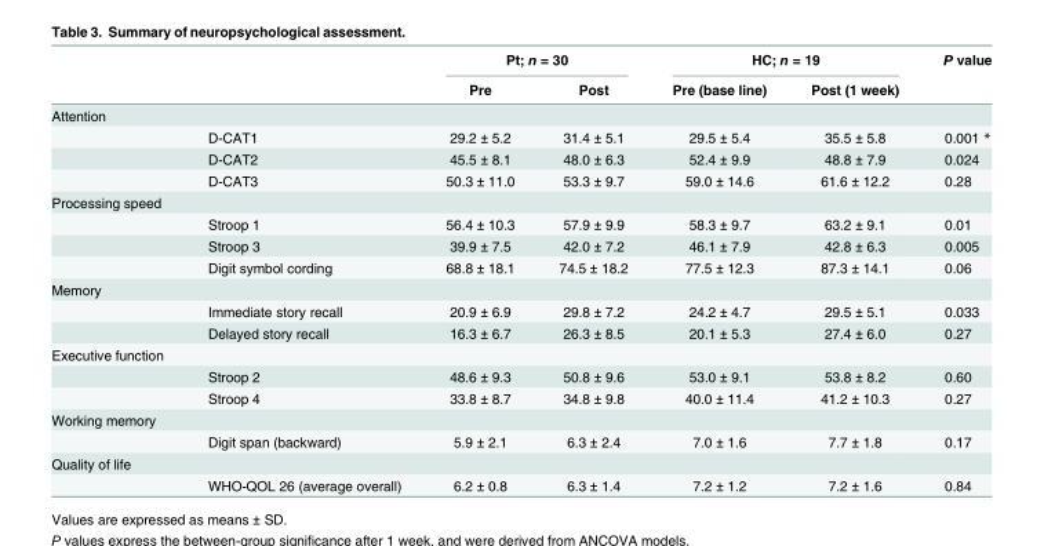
<table><thead><tr><td rowspan="2"></td><td rowspan="2"></td><td colspan="2">Pt; n = 30</td><td colspan="2">HC; n = 19</td><td rowspan="2">P value</td></tr><tr><td>Pre</td><td>Post</td><td>Pre (base line)</td><td>Post (1 week)</td></tr></thead><tbody><tr><td colspan="7">Attention</td></tr><tr><td></td><td>D-CAT1</td><td>29.2 ± 5.2</td><td>31.4 ± 5.1</td><td>29.5 ± 5.4</td><td>35.5 ± 5.8</td><td>0.001 *</td></tr><tr><td></td><td>D-CAT2</td><td>45.5 ± 8.1</td><td>48.0 ± 6.3</td><td>52.4 ± 9.9</td><td>48.8 ± 7.9</td><td>0.024</td></tr><tr><td></td><td>D-CAT3</td><td>50.3 ± 11.0</td><td>53.3 ± 9.7</td><td>59.0 ± 14.6</td><td>61.6 ± 12.2</td><td>0.28</td></tr><tr><td colspan="7">Processing speed</td></tr><tr><td></td><td>Stroop 1</td><td>56.4 ± 10.3</td><td>57.9 ± 9.9</td><td>58.3 ± 9.7</td><td>63.2 ± 9.1</td><td>0.01</td></tr><tr><td></td><td>Stroop 3</td><td>39.9 ± 7.5</td><td>42.0 ± 7.2</td><td>46.1 ± 7.9</td><td>42.8 ± 6.3</td><td>0.005</td></tr><tr><td></td><td>Digit symbol cording</td><td>68.8 ± 18.1</td><td>74.5 ± 18.2</td><td>77.5 ± 12.3</td><td>87.3 ± 14.1</td><td>0.06</td></tr><tr><td colspan="7">Memory</td></tr><tr><td></td><td>Immediate story recall</td><td>20.9 ± 6.9</td><td>29.8 ± 7.2</td><td>24.2 ± 4.7</td><td>29.5 ± 5.1</td><td>0.033</td></tr><tr><td></td><td>Delayed story recall</td><td>16.3 ± 6.7</td><td>26.3 ± 8.5</td><td>20.1 ± 5.3</td><td>27.4 ± 6.0</td><td>0.27</td></tr><tr><td colspan="7">Executive function</td></tr><tr><td></td><td>Stroop 2</td><td>48.6 ± 9.3</td><td>50.8 ± 9.6</td><td>53.0 ± 9.1</td><td>53.8 ± 8.2</td><td>0.60</td></tr><tr><td></td><td>Stroop 4</td><td>33.8 ± 8.7</td><td>34.8 ± 9.8</td><td>40.0 ± 11.4</td><td>41.2 ± 10.3</td><td>0.27</td></tr><tr><td colspan="7">Working memory</td></tr><tr><td></td><td>Digit span (backward)</td><td>5.9 ± 2.1</td><td>6.3 ± 2.4</td><td>7.0 ± 1.6</td><td>7.7 ± 1.8</td><td>0.17</td></tr><tr><td colspan="7">Quality of life</td></tr><tr><td></td><td>WHO-QOL 26 (average overall)</td><td>6.2 ± 0.8</td><td>6.3 ± 1.4</td><td>7.2 ± 1.2</td><td>7.2 ± 1.6</td><td>0.84</td></tr></tbody></table>